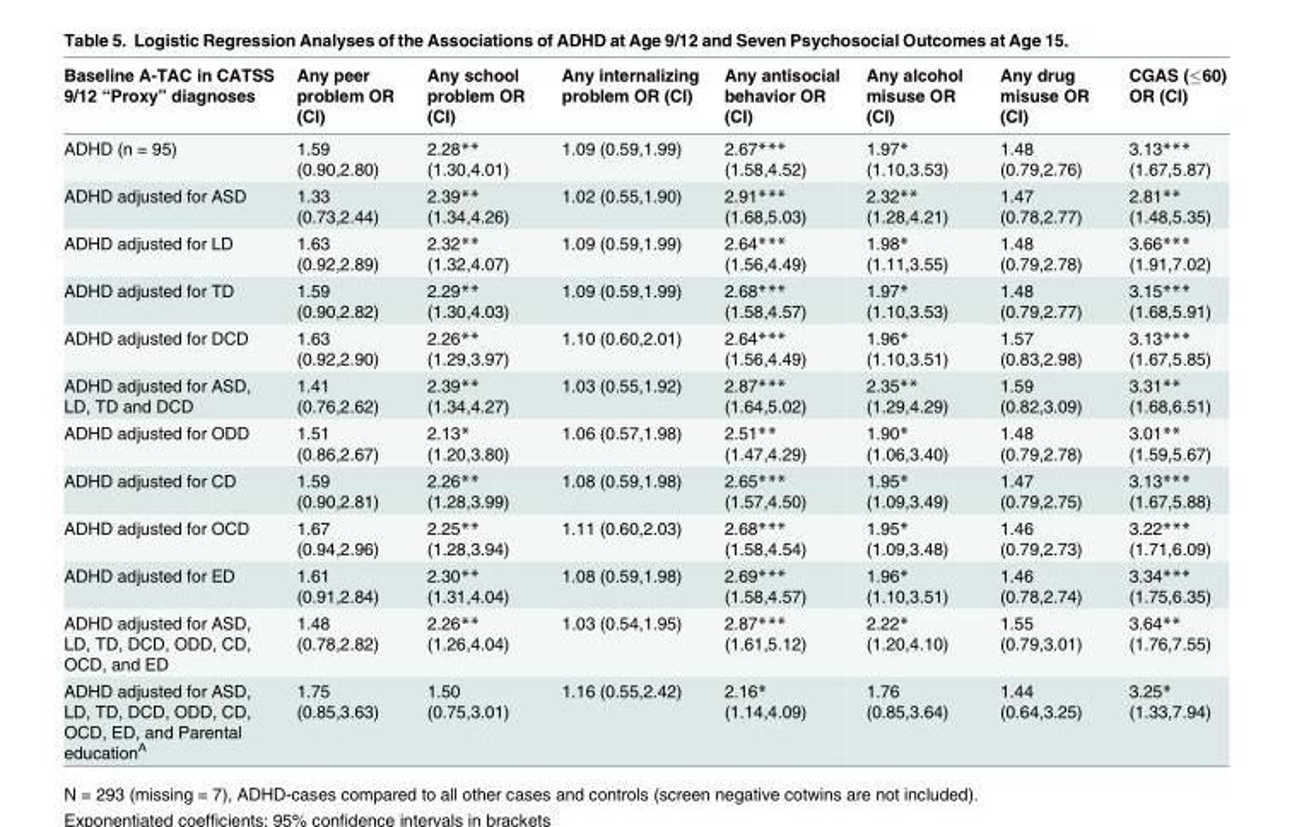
<table><thead><tr><td>Baseline A-TAC in CATSS 9/12 “Proxy” diagnoses</td><td>Any peer problem OR (CI)</td><td>Any school problem OR (CI)</td><td>Any internalizing problem OR (CI)</td><td>Any antisocial behavior OR (CI)</td><td>Any alcohol misuse OR (CI)</td><td>Any drug misuse OR (CI)</td><td>CGAS (≤60) OR (CI)</td></tr></thead><tbody><tr><td>ADHD (n = 95)</td><td>1.59 (0.90,2.80)</td><td>2.28** (1.30,4.01)</td><td>1.09 (0.59,1.99)</td><td>2.67*** (1.58,4.52)</td><td>1.97* (1.10,3.53)</td><td>1.48 (0.79,2.76)</td><td>3.13*** (1.67,5.87)</td></tr><tr><td>ADHD adjusted for ASD</td><td>1.33 (0.73,2.44)</td><td>2.39** (1.34,4.26)</td><td>1.02 (0.55,1.90)</td><td>2.91*** (1.68,5.03)</td><td>2.32** (1.28,4.21)</td><td>1.47 (0.78,2.77)</td><td>2.81** (1.48,5.35)</td></tr><tr><td>ADHD adjusted for LD</td><td>1.63 (0.92,2.89)</td><td>2.32** (1.32,4.07)</td><td>1.09 (0.59,1.99)</td><td>2.64*** (1.56,4.49)</td><td>1.98* (1.11,3.55)</td><td>1.48 (0.79,2.78)</td><td>3.66*** (1.91,7.02)</td></tr><tr><td>ADHD adjusted for TD</td><td>1.59 (0.90,2.82)</td><td>2.29** (1.30,4.03)</td><td>1.09 (0.59,1.99)</td><td>2.68*** (1.58,4.57)</td><td>1.97* (1.10,3.53)</td><td>1.48 (0.79,2.77)</td><td>3.15*** (1.68,5.91)</td></tr><tr><td>ADHD adjusted for DCD</td><td>1.63 (0.92,2.90)</td><td>2.26** (1.29,3.97)</td><td>1.10 (0.60,2.01)</td><td>2.64*** (1.56,4.49)</td><td>1.96* (1.10,3.51)</td><td>1.57 (0.83,2.98)</td><td>3.13*** (1.67,5.85)</td></tr><tr><td>ADHD adjusted for ASD, LD, TD and DCD</td><td>1.41 (0.76,2.62)</td><td>2.39** (1.34,4.27)</td><td>1.03 (0.55,1.92)</td><td>2.87*** (1.64,5.02)</td><td>2.35** (1.29,4.29)</td><td>1.59 (0.82,3.09)</td><td>3.31** (1.68,6.51)</td></tr><tr><td>ADHD adjusted for ODD</td><td>1.51 (0.86,2.67)</td><td>2.13* (1.20,3.80)</td><td>1.06 (0.57,1.98)</td><td>2.51** (1.47,4.29)</td><td>1.90* (1.06,3.40)</td><td>1.48 (0.79,2.78)</td><td>3.01** (1.59,5.67)</td></tr><tr><td>ADHD adjusted for CD</td><td>1.59 (0.90,2.81)</td><td>2.26** (1.28,3.99)</td><td>1.08 (0.59,1.98)</td><td>2.65*** (1.57,4.50)</td><td>1.95* (1.09,3.49)</td><td>1.47 (0.79,2.75)</td><td>3.13*** (1.67,5.88)</td></tr><tr><td>ADHD adjusted for OCD</td><td>1.67 (0.94,2.96)</td><td>2.25** (1.28,3.94)</td><td>1.11 (0.60,2.03)</td><td>2.68*** (1.58,4.54)</td><td>1.95* (1.09,3.48)</td><td>1.46 (0.79,2.73)</td><td>3.22*** (1.71,6.09)</td></tr><tr><td>ADHD adjusted for ED</td><td>1.61 (0.91,2.84)</td><td>2.30** (1.31,4.04)</td><td>1.08 (0.59,1.98)</td><td>2.69*** (1.58,4.57)</td><td>1.96* (1.10,3.51)</td><td>1.46 (0.78,2.74)</td><td>3.34*** (1.75,6.35)</td></tr><tr><td>ADHD adjusted for ASD, LD, TD, DCD, ODD, CD, OCD, and ED</td><td>1.48 (0.78,2.82)</td><td>2.26** (1.26,4.04)</td><td>1.03 (0.54,1.95)</td><td>2.87*** (1.61,5.12)</td><td>2.22* (1.20,4.10)</td><td>1.55 (0.79,3.01)</td><td>3.64** (1.76,7.55)</td></tr><tr><td>ADHD adjusted for ASD, LD, TD, DCD, ODD, CD, OCD, ED, and Parental education<sup>A</sup></td><td>1.75 (0.85,3.63)</td><td>1.50 (0.75,3.01)</td><td>1.16 (0.55,2.42)</td><td>2.16* (1.14,4.09)</td><td>1.76 (0.85,3.64)</td><td>1.44 (0.64,3.25)</td><td>3.25* (1.33,7.94)</td></tr></tbody></table>